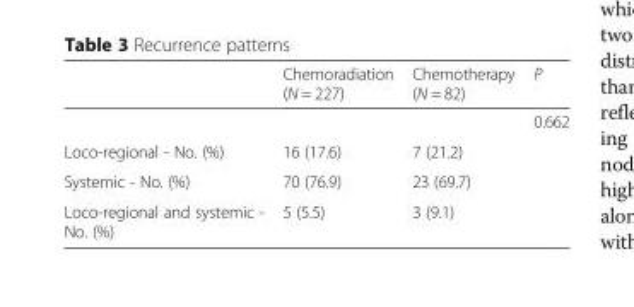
<table><thead><tr><td></td><td>Chemoradiation (N = 227)</td><td>Chemotherapy (N = 82)</td><td>P</td></tr></thead><tbody><tr><td></td><td></td><td></td><td>0.662</td></tr><tr><td>Loco-regional - No. (%)</td><td>16 (17.6)</td><td>7 (21.2)</td><td></td></tr><tr><td>Systemic - No. (%)</td><td>70 (76.9)</td><td>23 (69.7)</td><td></td></tr><tr><td>Loco-regional and systemic - No. (%)</td><td>5 (5.5)</td><td>3 (9.1)</td><td></td></tr></tbody></table>